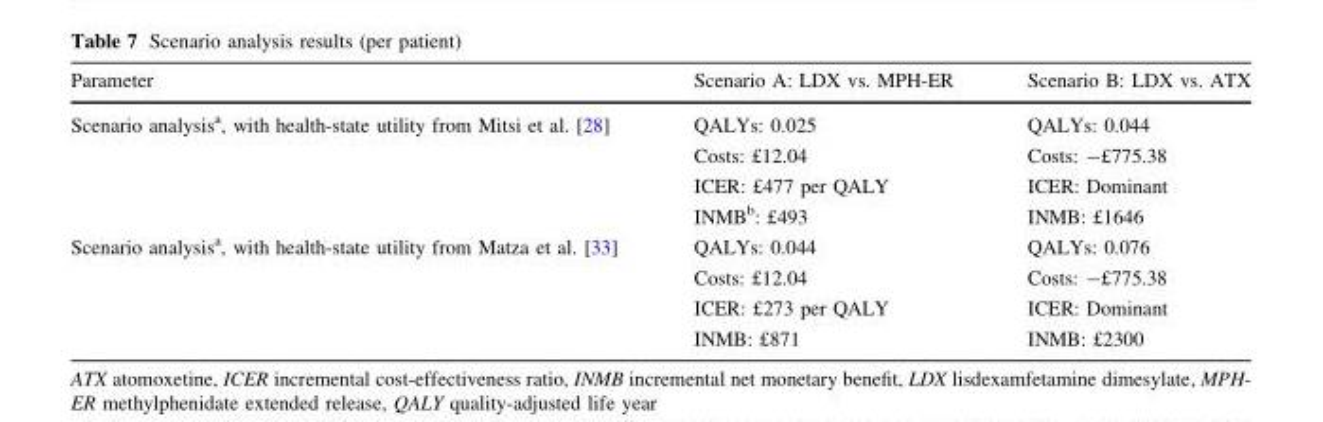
<table><thead><tr><td>Parameter</td><td>Scenario A: LDX vs. MPH-ER</td><td>Scenario B: LDX vs. ATX</td></tr></thead><tbody><tr><td rowspan="4">Scenario analysis<sup>a</sup>, with health-state utility from Mitsi et al. [28]</td><td>QALYs: 0.025</td><td>QALYs: 0.044</td></tr><tr><td>Costs: £12.04</td><td>Costs: -£775.38</td></tr><tr><td>ICER: £477 per QALY</td><td>ICER: Dominant</td></tr><tr><td>INMB<sup>b</sup>: £493</td><td>INMB: £1646</td></tr><tr><td rowspan="4">Scenario analysis<sup>a</sup>, with health-state utility from Matza et al. [33]</td><td>QALYs: 0.044</td><td>QALYs: 0.076</td></tr><tr><td>Costs: £12.04</td><td>Costs: -£775.38</td></tr><tr><td>ICER: £273 per QALY</td><td>ICER: Dominant</td></tr><tr><td>INMB: £871</td><td>INMB: £2300</td></tr></tbody></table>